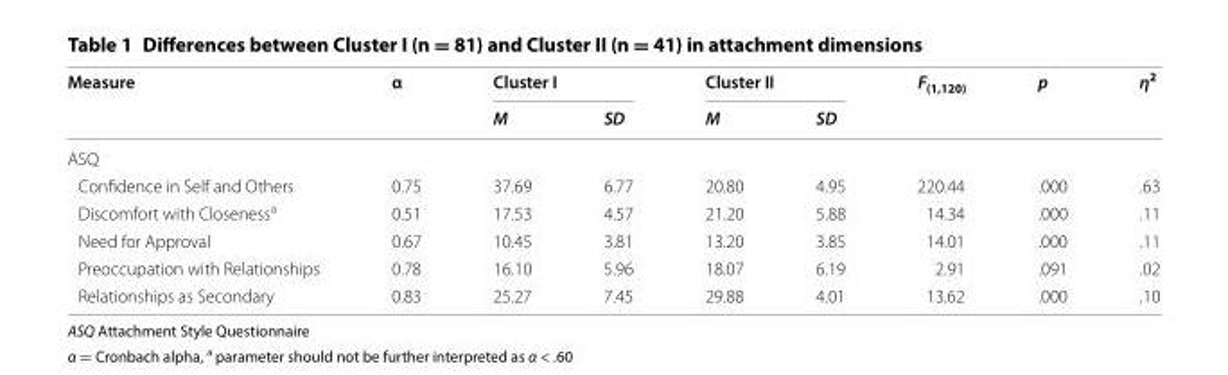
<table><thead><tr><td rowspan="2">Measure</td><td rowspan="2">α</td><td colspan="2">Cluster I</td><td colspan="2">Cluster II</td><td rowspan="2">F<sub>(1,120)</sub></td><td rowspan="2">p</td><td rowspan="2">η<sup>2</sup></td></tr><tr><td>M</td><td>SD</td><td>M</td><td>SD</td></tr></thead><tbody><tr><td colspan="9">ASQ</td></tr><tr><td>Confidence in Self and Others</td><td>0.75</td><td>37.69</td><td>6.77</td><td>20.80</td><td>4.95</td><td>220.44</td><td>.000</td><td>.63</td></tr><tr><td>Discomfort with Closeness<sup>a</sup></td><td>0.51</td><td>17.53</td><td>4.57</td><td>21.20</td><td>5.88</td><td>14.34</td><td>.000</td><td>.11</td></tr><tr><td>Need for Approval</td><td>0.67</td><td>10.45</td><td>3.81</td><td>13.20</td><td>3.85</td><td>14.01</td><td>.000</td><td>.11</td></tr><tr><td>Preoccupation with Relationships</td><td>0.78</td><td>16.10</td><td>5.96</td><td>18.07</td><td>6.19</td><td>2.91</td><td>.091</td><td>.02</td></tr><tr><td>Relationships as Secondary</td><td>0.83</td><td>25.27</td><td>7.45</td><td>29.88</td><td>4.01</td><td>13.62</td><td>.000</td><td>.10</td></tr></tbody></table>